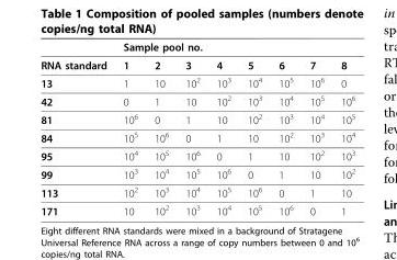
<table><thead><tr><td rowspan="2">RNA standard</td><td colspan="8">Sample pool no.</td></tr><tr><td>1</td><td>2</td><td>3</td><td>4</td><td>5</td><td>6</td><td>7</td><td>8</td></tr></thead><tbody><tr><td>13</td><td>1</td><td>10</td><td>10<sup>2</sup></td><td>10<sup>3</sup></td><td>10<sup>4</sup></td><td>10<sup>5</sup></td><td>10<sup>6</sup></td><td>0</td></tr><tr><td>42</td><td>0</td><td>1</td><td>10</td><td>10<sup>2</sup></td><td>10<sup>3</sup></td><td>10<sup>4</sup></td><td>10<sup>5</sup></td><td>10<sup>6</sup></td></tr><tr><td>81</td><td>10<sup>6</sup></td><td>0</td><td>1</td><td>10</td><td>10<sup>2</sup></td><td>10<sup>3</sup></td><td>10<sup>4</sup></td><td>10<sup>5</sup></td></tr><tr><td>84</td><td>10<sup>5</sup></td><td>10<sup>6</sup></td><td>0</td><td>1</td><td>10</td><td>10<sup>2</sup></td><td>10<sup>3</sup></td><td>10<sup>4</sup></td></tr><tr><td>95</td><td>10<sup>4</sup></td><td>10<sup>5</sup></td><td>10<sup>6</sup></td><td>0</td><td>1</td><td>10</td><td>10<sup>2</sup></td><td>10<sup>3</sup></td></tr><tr><td>99</td><td>10<sup>3</sup></td><td>10<sup>4</sup></td><td>10<sup>5</sup></td><td>10<sup>6</sup></td><td>0</td><td>1</td><td>10</td><td>10<sup>2</sup></td></tr><tr><td>113</td><td>10<sup>2</sup></td><td>10<sup>3</sup></td><td>10<sup>4</sup></td><td>10<sup>5</sup></td><td>10<sup>6</sup></td><td>0</td><td>1</td><td>10</td></tr><tr><td>171</td><td>10</td><td>10<sup>2</sup></td><td>10<sup>3</sup></td><td>10<sup>4</sup></td><td>10<sup>5</sup></td><td>10<sup>6</sup></td><td>0</td><td>1</td></tr></tbody></table>